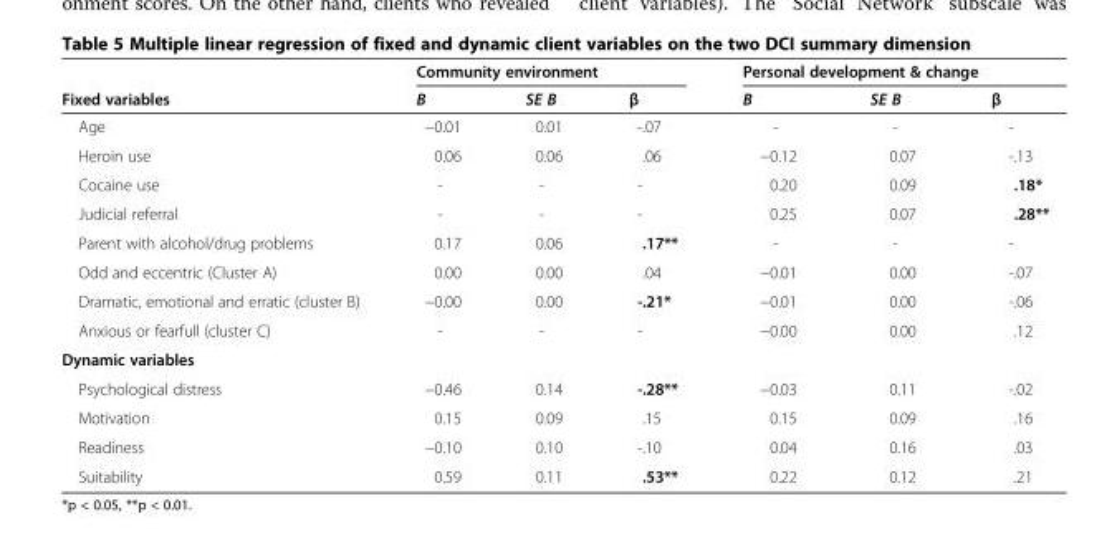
<table><thead><tr><td rowspan="2">Fixed variables</td><td colspan="3">Community environment</td><td colspan="3">Personal development &amp; change</td></tr><tr><td>B</td><td>SE B</td><td>β</td><td>B</td><td>SE B</td><td>β</td></tr></thead><tbody><tr><td>Age</td><td>−0.01</td><td>0.01</td><td>-.07</td><td>-</td><td>-</td><td>-</td></tr><tr><td>Heroin use</td><td>0.06</td><td>0.06</td><td>.06</td><td>−0.12</td><td>0.07</td><td>-.13</td></tr><tr><td>Cocaine use</td><td>-</td><td>-</td><td>-</td><td>0.20</td><td>0.09</td><td>.18*</td></tr><tr><td>Judicial referral</td><td>-</td><td>-</td><td>-</td><td>0.25</td><td>0.07</td><td>.28**</td></tr><tr><td>Parent with alcohol/drug problems</td><td>0.17</td><td>0.06</td><td>.17**</td><td>-</td><td>-</td><td>-</td></tr><tr><td>Odd and eccentric (Cluster A)</td><td>0.00</td><td>0.00</td><td>.04</td><td>−0.01</td><td>0.00</td><td>-.07</td></tr><tr><td>Dramatic, emotional and erratic (cluster B)</td><td>−0.00</td><td>0.00</td><td>-.21*</td><td>−0.01</td><td>0.00</td><td>-.06</td></tr><tr><td>Anxious or fearfull (cluster C)</td><td>-</td><td>-</td><td>-</td><td>−0.00</td><td>0.00</td><td>.12</td></tr><tr><td colspan="7">Dynamic variables</td></tr><tr><td>Psychological distress</td><td>−0.46</td><td>0.14</td><td>-.28**</td><td>−0.03</td><td>0.11</td><td>-.02</td></tr><tr><td>Motivation</td><td>0.15</td><td>0.09</td><td>.15</td><td>0.15</td><td>0.09</td><td>.16</td></tr><tr><td>Readiness</td><td>−0.10</td><td>0.10</td><td>-.10</td><td>0.04</td><td>0.16</td><td>.03</td></tr><tr><td>Suitability</td><td>0.59</td><td>0.11</td><td>.53**</td><td>0.22</td><td>0.12</td><td>.21</td></tr></tbody></table>